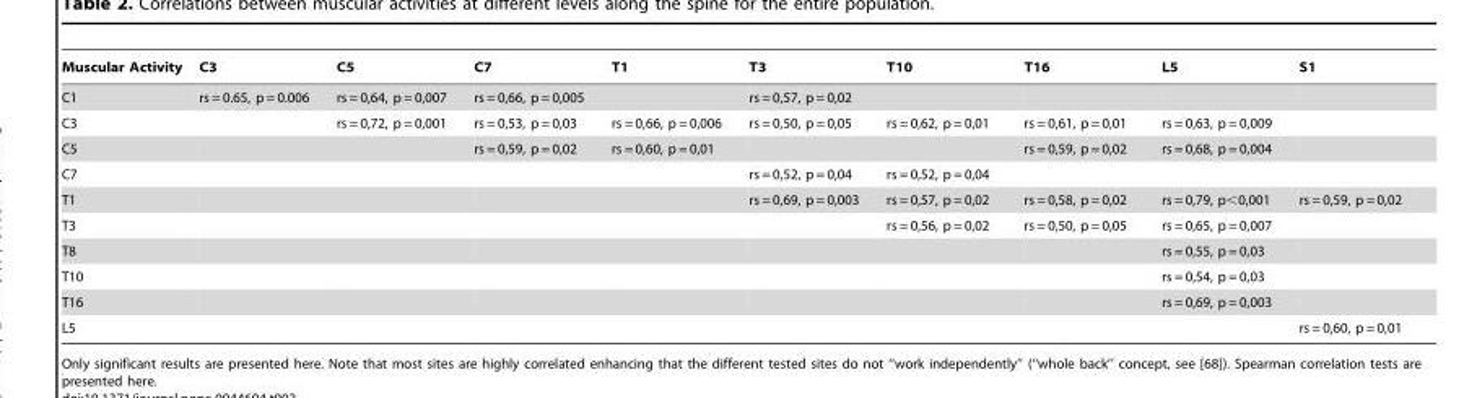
<table><thead><tr><td>Muscular Activity</td><td>C3</td><td>C5</td><td>C7</td><td>T1</td><td>T3</td><td>T10</td><td>T16</td><td>L5</td><td>S1</td></tr></thead><tbody><tr><td>C1</td><td>rs = 0.65, p = 0.006</td><td>rs = 0,64, p = 0,007</td><td>rs = 0,66, p = 0,005</td><td></td><td>rs = 0,57, p = 0,02</td><td></td><td></td><td></td><td></td></tr><tr><td>C3</td><td></td><td>rs = 0,72, p = 0,001</td><td>rs = 0,53, p = 0,03</td><td>rs = 0,66, p = 0,006</td><td>rs = 0,50, p = 0,05</td><td>rs = 0,62, p = 0,01</td><td>rs = 0,61, p = 0,01</td><td>rs = 0,63, p = 0,009</td><td></td></tr><tr><td>C5</td><td></td><td></td><td>rs = 0,59, p = 0,02</td><td>rs = 0,60, p = 0,01</td><td></td><td></td><td>rs = 0,59, p = 0,02</td><td>rs = 0,68, p = 0,004</td><td></td></tr><tr><td>C7</td><td></td><td></td><td></td><td></td><td>rs = 0,52, p = 0,04</td><td>rs = 0,52, p = 0,04</td><td></td><td></td><td></td></tr><tr><td>T1</td><td></td><td></td><td></td><td></td><td>rs = 0,69, p = 0,003</td><td>rs = 0,57, p = 0,02</td><td>rs = 0,58, p = 0,02</td><td>rs = 0,79, p&lt;0,001</td><td>rs = 0,59, p = 0,02</td></tr><tr><td>T3</td><td></td><td></td><td></td><td></td><td></td><td>rs = 0,56, p = 0,02</td><td>rs = 0,50, p = 0,05</td><td>rs = 0,65, p = 0,007</td><td></td></tr><tr><td>T8</td><td></td><td></td><td></td><td></td><td></td><td></td><td></td><td>rs = 0,55, p = 0,03</td><td></td></tr><tr><td>T10</td><td></td><td></td><td></td><td></td><td></td><td></td><td></td><td>rs = 0,54, p = 0,03</td><td></td></tr><tr><td>T16</td><td></td><td></td><td></td><td></td><td></td><td></td><td></td><td>rs = 0,69, p = 0,003</td><td></td></tr><tr><td>L5</td><td></td><td></td><td></td><td></td><td></td><td></td><td></td><td></td><td>rs = 0,60, p = 0,01</td></tr></tbody></table>